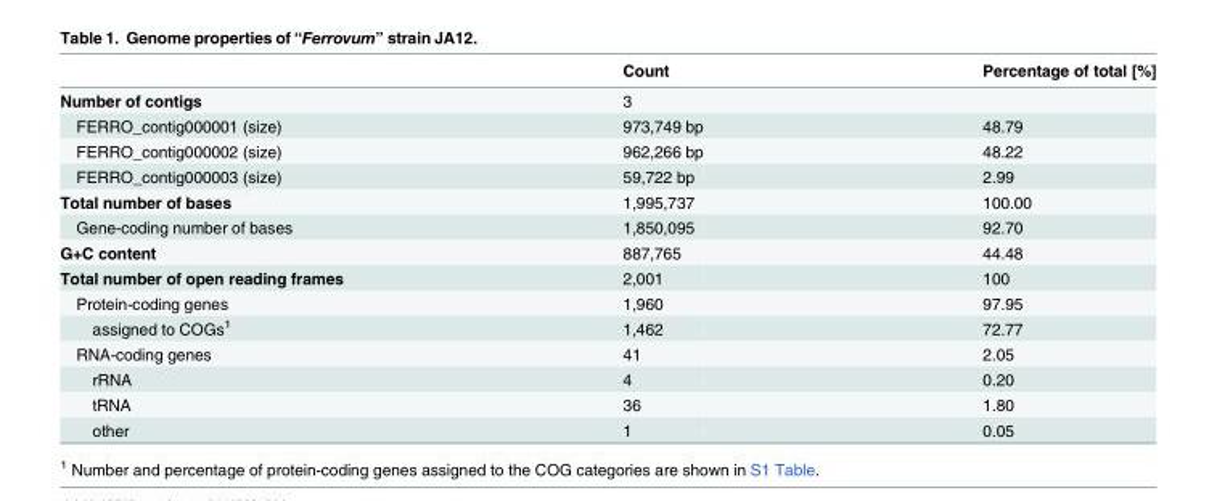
<table><thead><tr><td></td><td>Count</td><td>Percentage of total [%]</td></tr></thead><tbody><tr><td>Number of contigs</td><td>3</td><td></td></tr><tr><td>FERRO_contig000001 (size)</td><td>973,749 bp</td><td>48.79</td></tr><tr><td>FERRO_contig000002 (size)</td><td>962,266 bp</td><td>48.22</td></tr><tr><td>FERRO_contig000003 (size)</td><td>59,722 bp</td><td>2.99</td></tr><tr><td>Total number of bases</td><td>1,995,737</td><td>100.00</td></tr><tr><td>Gene-coding number of bases</td><td>1,850,095</td><td>92.70</td></tr><tr><td>G+C content</td><td>887,765</td><td>44.48</td></tr><tr><td>Total number of open reading frames</td><td>2,001</td><td>100</td></tr><tr><td>Protein-coding genes</td><td>1,960</td><td>97.95</td></tr><tr><td>assigned to COGs<sup>1</sup></td><td>1,462</td><td>72.77</td></tr><tr><td>RNA-coding genes</td><td>41</td><td>2.05</td></tr><tr><td>rRNA</td><td>4</td><td>0.20</td></tr><tr><td>tRNA</td><td>36</td><td>1.80</td></tr><tr><td>other</td><td>1</td><td>0.05</td></tr></tbody></table>